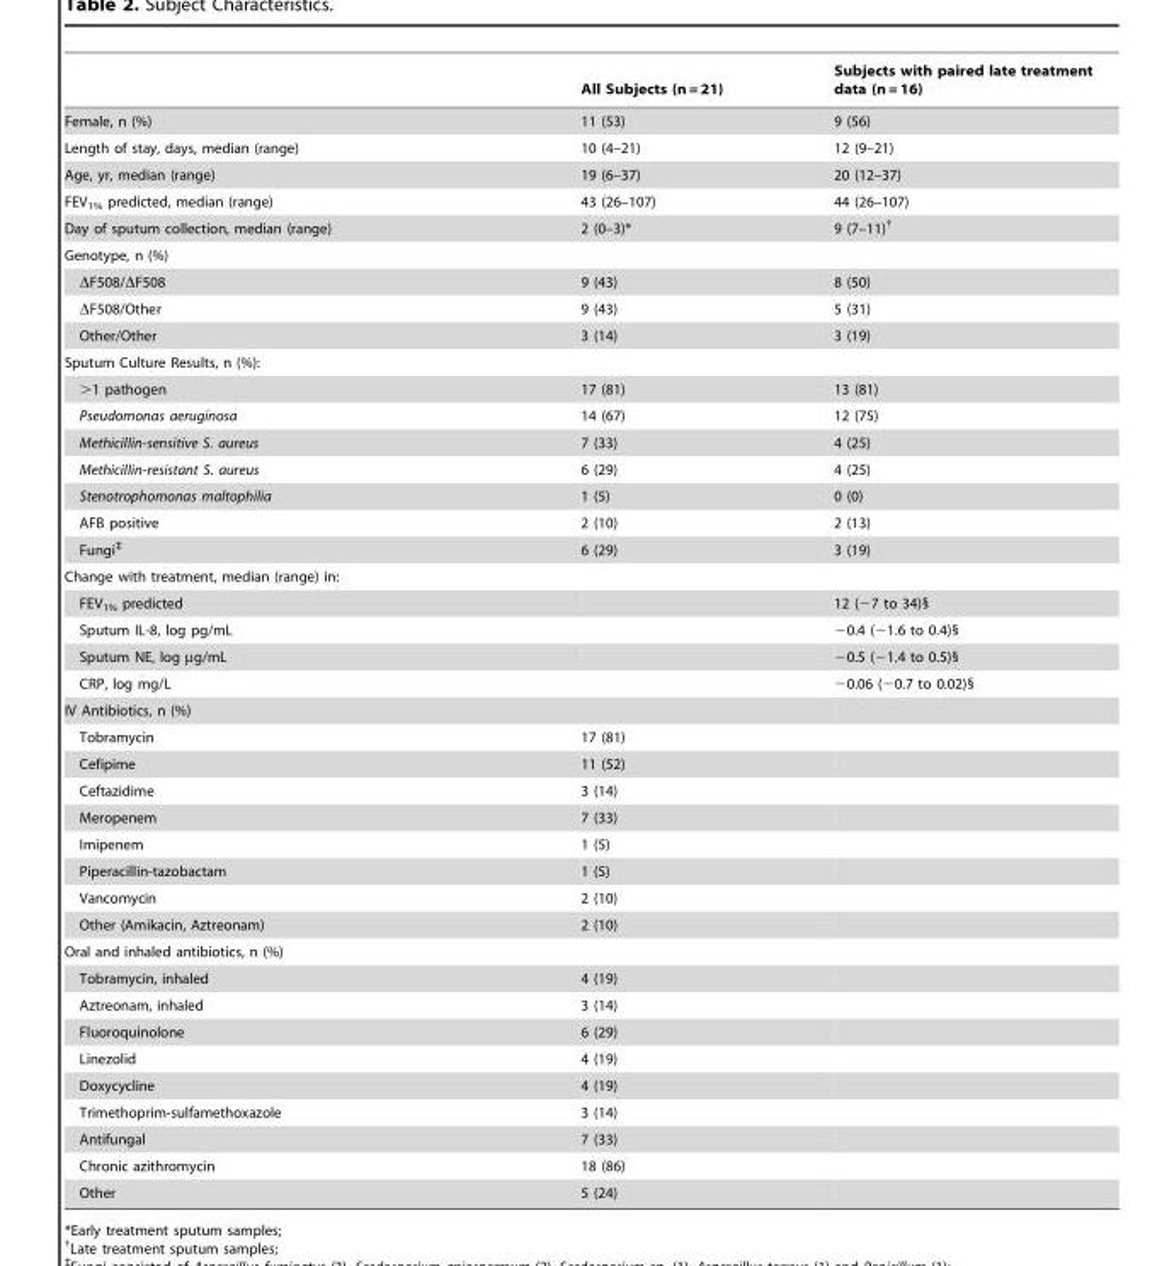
<table><thead><tr><td></td><td>All Subjects (n = 21)</td><td>Subjects with paired late treatment data (n = 16)</td></tr></thead><tbody><tr><td>Female, n (%)</td><td>11 (53)</td><td>9 (56)</td></tr><tr><td>Length of stay, days, median (range)</td><td>10 (4–21)</td><td>12 (9–21)</td></tr><tr><td>Age, yr, median (range)</td><td>19 (6–37)</td><td>20 (12–37)</td></tr><tr><td>FEV<sub>1%</sub> predicted, median (range)</td><td>43 (26–107)</td><td>44 (26–107)</td></tr><tr><td>Day of sputum collection, median (range)</td><td>2 (0–3)*</td><td>9 (7–11)†</td></tr><tr><td colspan="3">Genotype, n (%)</td></tr><tr><td>ΔF508/ΔF508</td><td>9 (43)</td><td>8 (50)</td></tr><tr><td>ΔF508/Other</td><td>9 (43)</td><td>5 (31)</td></tr><tr><td>Other/Other</td><td>3 (14)</td><td>3 (19)</td></tr><tr><td colspan="3">Sputum Culture Results, n (%):</td></tr><tr><td>&gt;1 pathogen</td><td>17 (81)</td><td>13 (81)</td></tr><tr><td>Pseudomonas aeruginosa</td><td>14 (67)</td><td>12 (75)</td></tr><tr><td>Methicillin-sensitive S. aureus</td><td>7 (33)</td><td>4 (25)</td></tr><tr><td>Methicillin-resistant S. aureus</td><td>6 (29)</td><td>4 (25)</td></tr><tr><td>Stenotrophomonas maltophilia</td><td>1 (5)</td><td>0 (0)</td></tr><tr><td>AFB positive</td><td>2 (10)</td><td>2 (13)</td></tr><tr><td>Fungi‡</td><td>6 (29)</td><td>3 (19)</td></tr><tr><td colspan="3">Change with treatment, median (range) in:</td></tr><tr><td>FEV<sub>1%</sub> predicted</td><td></td><td>12 (−7 to 34)§</td></tr><tr><td>Sputum IL-8, log pg/mL</td><td></td><td>−0.4 (−1.6 to 0.4)§</td></tr><tr><td>Sputum NE, log µg/mL</td><td></td><td>−0.5 (−1.4 to 0.5)§</td></tr><tr><td>CRP, log mg/L</td><td></td><td>−0.06 (−0.7 to 0.02)§</td></tr><tr><td colspan="3">IV Antibiotics, n (%)</td></tr><tr><td>Tobramycin</td><td>17 (81)</td><td></td></tr><tr><td>Cefipime</td><td>11 (52)</td><td></td></tr><tr><td>Ceftazidime</td><td>3 (14)</td><td></td></tr><tr><td>Meropenem</td><td>7 (33)</td><td></td></tr><tr><td>Imipenem</td><td>1 (5)</td><td></td></tr><tr><td>Piperacillin-tazobactam</td><td>1 (5)</td><td></td></tr><tr><td>Vancomycin</td><td>2 (10)</td><td></td></tr><tr><td>Other (Amikacin, Aztreonam)</td><td>2 (10)</td><td></td></tr><tr><td colspan="3">Oral and inhaled antibiotics, n (%)</td></tr><tr><td>Tobramycin, inhaled</td><td>4 (19)</td><td></td></tr><tr><td>Aztreonam, inhaled</td><td>3 (14)</td><td></td></tr><tr><td>Fluoroquinolone</td><td>6 (29)</td><td></td></tr><tr><td>Linezolid</td><td>4 (19)</td><td></td></tr><tr><td>Doxycycline</td><td>4 (19)</td><td></td></tr><tr><td>Trimethoprim-sulfamethoxazole</td><td>3 (14)</td><td></td></tr><tr><td>Antifungal</td><td>7 (33)</td><td></td></tr><tr><td>Chronic azithromycin</td><td>18 (86)</td><td></td></tr><tr><td>Other</td><td>5 (24)</td><td></td></tr></tbody></table>